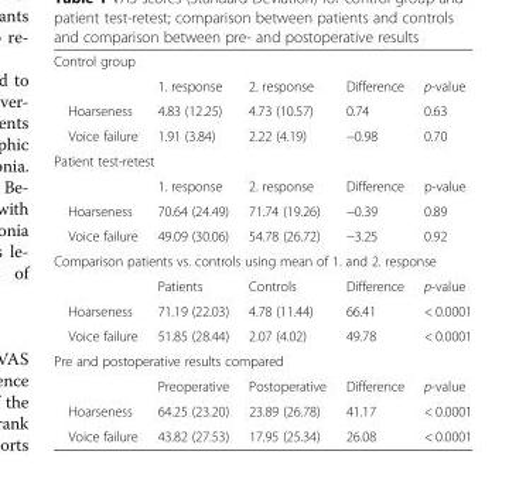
<table><tbody><tr><td colspan="5">Control group</td></tr><tr><td></td><td>1. response</td><td>2. response</td><td>Difference</td><td>p-value</td></tr><tr><td>Hoarseness</td><td>4.83 (12.25)</td><td>4.73 (10.57)</td><td>0.74</td><td>0.63</td></tr><tr><td>Voice failure</td><td>1.91 (3.84)</td><td>2.22 (4.19)</td><td>−0.98</td><td>0.70</td></tr><tr><td colspan="5">Patient test-retest</td></tr><tr><td></td><td>1. response</td><td>2. response</td><td>Difference</td><td>p-value</td></tr><tr><td>Hoarseness</td><td>70.64 (24.49)</td><td>71.74 (19.26)</td><td>−0.39</td><td>0.89</td></tr><tr><td>Voice failure</td><td>49.09 (30.06)</td><td>54.78 (26.72)</td><td>−3.25</td><td>0.92</td></tr><tr><td colspan="5">Comparison patients vs. controls using mean of 1. and 2. response</td></tr><tr><td></td><td>Patients</td><td>Controls</td><td>Difference</td><td>p-value</td></tr><tr><td>Hoarseness</td><td>71.19 (22.03)</td><td>4.78 (11.44)</td><td>66.41</td><td>&lt; 0.0001</td></tr><tr><td>Voice failure</td><td>51.85 (28.44)</td><td>2.07 (4.02)</td><td>49.78</td><td>&lt; 0.0001</td></tr><tr><td colspan="5">Pre and postoperative results compared</td></tr><tr><td></td><td>Preoperative</td><td>Postoperative</td><td>Difference</td><td>p-value</td></tr><tr><td>Hoarseness</td><td>64.25 (23.20)</td><td>23.89 (26.78)</td><td>41.17</td><td>&lt; 0.0001</td></tr><tr><td>Voice failure</td><td>43.82 (27.53)</td><td>17.95 (25.34)</td><td>26.08</td><td>&lt; 0.0001</td></tr></tbody></table>